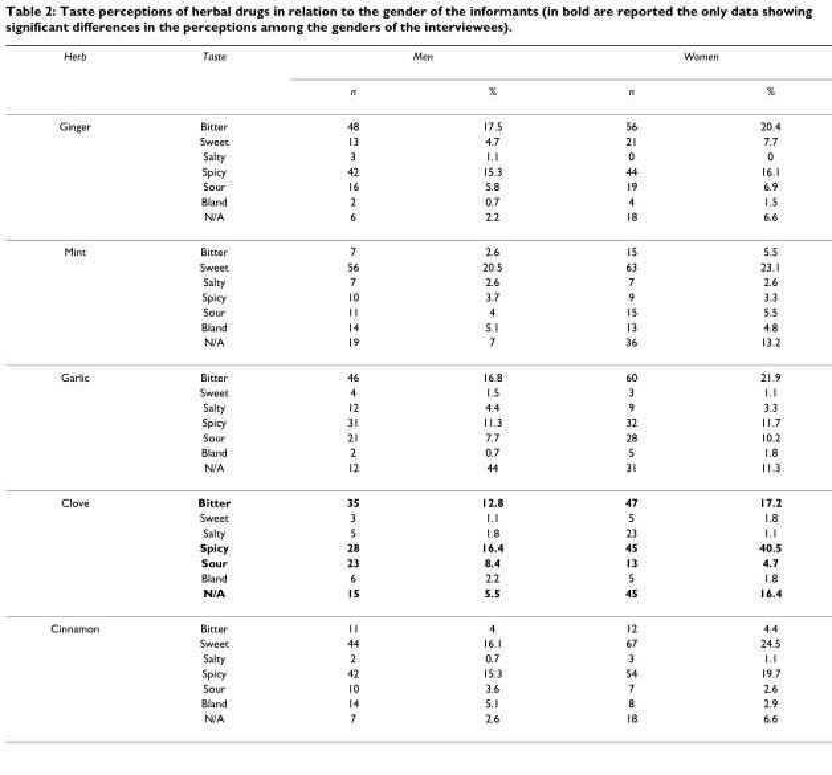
<table><thead><tr><td rowspan="2">Herb</td><td rowspan="2">Taste</td><td colspan="2">Men</td><td colspan="2">Women</td></tr><tr><td>n</td><td>%</td><td>n</td><td>%</td></tr></thead><tbody><tr><td rowspan="7">Ginger</td><td>Bitter</td><td>48</td><td>17.5</td><td>56</td><td>20.4</td></tr><tr><td>Sweet</td><td>13</td><td>4.7</td><td>21</td><td>7.7</td></tr><tr><td>Salty</td><td>3</td><td>1.1</td><td>0</td><td>0</td></tr><tr><td>Spicy</td><td>42</td><td>15.3</td><td>44</td><td>16.1</td></tr><tr><td>Sour</td><td>16</td><td>5.8</td><td>19</td><td>6.9</td></tr><tr><td>Bland</td><td>2</td><td>0.7</td><td>4</td><td>1.5</td></tr><tr><td>N/A</td><td>6</td><td>2.2</td><td>18</td><td>6.6</td></tr><tr><td rowspan="7">Mint</td><td>Bitter</td><td>7</td><td>2.6</td><td>15</td><td>5.5</td></tr><tr><td>Sweet</td><td>56</td><td>20.5</td><td>63</td><td>23.1</td></tr><tr><td>Salty</td><td>7</td><td>2.6</td><td>7</td><td>2.6</td></tr><tr><td>Spicy</td><td>10</td><td>3.7</td><td>9</td><td>3.3</td></tr><tr><td>Sour</td><td>11</td><td>4</td><td>15</td><td>5.5</td></tr><tr><td>Bland</td><td>14</td><td>5.1</td><td>13</td><td>4.8</td></tr><tr><td>N/A</td><td>19</td><td>7</td><td>36</td><td>13.2</td></tr><tr><td rowspan="7">Garlic</td><td>Bitter</td><td>46</td><td>16.8</td><td>60</td><td>21.9</td></tr><tr><td>Sweet</td><td>4</td><td>1.5</td><td>3</td><td>1.1</td></tr><tr><td>Salty</td><td>12</td><td>4.4</td><td>9</td><td>3.3</td></tr><tr><td>Spicy</td><td>31</td><td>11.3</td><td>32</td><td>11.7</td></tr><tr><td>Sour</td><td>21</td><td>7.7</td><td>28</td><td>10.2</td></tr><tr><td>Bland</td><td>2</td><td>0.7</td><td>5</td><td>1.8</td></tr><tr><td>N/A</td><td>12</td><td>44</td><td>31</td><td>11.3</td></tr><tr><td rowspan="7">Clove</td><td>Bitter</td><td>35</td><td>12.8</td><td>47</td><td>17.2</td></tr><tr><td>Sweet</td><td>3</td><td>1.1</td><td>5</td><td>1.8</td></tr><tr><td>Salty</td><td>5</td><td>1.8</td><td>23</td><td>1.1</td></tr><tr><td>Spicy</td><td>28</td><td>16.4</td><td>45</td><td>40.5</td></tr><tr><td>Sour</td><td>23</td><td>8.4</td><td>13</td><td>4.7</td></tr><tr><td>Bland</td><td>6</td><td>2.2</td><td>5</td><td>1.8</td></tr><tr><td>N/A</td><td>15</td><td>5.5</td><td>45</td><td>16.4</td></tr><tr><td rowspan="7">Cinnamon</td><td>Bitter</td><td>11</td><td>4</td><td>12</td><td>4.4</td></tr><tr><td>Sweet</td><td>44</td><td>16.1</td><td>67</td><td>24.5</td></tr><tr><td>Salty</td><td>2</td><td>0.7</td><td>3</td><td>1.1</td></tr><tr><td>Spicy</td><td>42</td><td>15.3</td><td>54</td><td>19.7</td></tr><tr><td>Sour</td><td>10</td><td>3.6</td><td>7</td><td>2.6</td></tr><tr><td>Bland</td><td>14</td><td>5.1</td><td>8</td><td>2.9</td></tr><tr><td>N/A</td><td>7</td><td>2.6</td><td>18</td><td>6.6</td></tr></tbody></table>